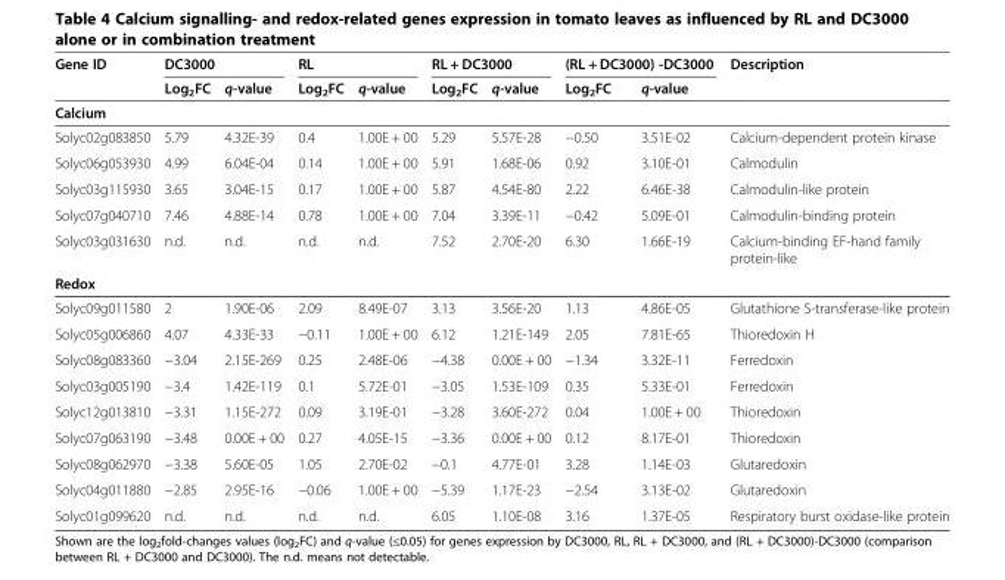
<table><thead><tr><td rowspan="2">Gene ID</td><td colspan="2">DC3000</td><td colspan="2">RL</td><td colspan="2">RL + DC3000</td><td colspan="2">(RL + DC3000) -DC3000</td><td rowspan="2">Description</td></tr><tr><td>Log<sub>2</sub>FC</td><td>q-value</td><td>Log<sub>2</sub>FC</td><td>q-value</td><td>Log<sub>2</sub>FC</td><td>q-value</td><td>Log<sub>2</sub>FC</td><td>q-value</td></tr></thead><tbody><tr><td colspan="10">Calcium</td></tr><tr><td>Solyc02g083850</td><td>5.79</td><td>4.32E-39</td><td>0.4</td><td>1.00E + 00</td><td>5.29</td><td>5.57E-28</td><td>−0.50</td><td>3.51E-02</td><td>Calcium-dependent protein kinase</td></tr><tr><td>Solyc06g053930</td><td>4.99</td><td>6.04E-04</td><td>0.14</td><td>1.00E + 00</td><td>5.91</td><td>1.68E-06</td><td>0.92</td><td>3.10E-01</td><td>Calmodulin</td></tr><tr><td>Solyc03g115930</td><td>3.65</td><td>3.04E-15</td><td>0.17</td><td>1.00E + 00</td><td>5.87</td><td>4.54E-80</td><td>2.22</td><td>6.46E-38</td><td>Calmodulin-like protein</td></tr><tr><td>Solyc07g040710</td><td>7.46</td><td>4.88E-14</td><td>0.78</td><td>1.00E + 00</td><td>7.04</td><td>3.39E-11</td><td>−0.42</td><td>5.09E-01</td><td>Calmodulin-binding protein</td></tr><tr><td>Solyc03g031630</td><td>n.d.</td><td>n.d.</td><td>n.d.</td><td>n.d.</td><td>7.52</td><td>2.70E-20</td><td>6.30</td><td>1.66E-19</td><td>Calcium-binding EF-hand family protein-like</td></tr><tr><td colspan="10">Redox</td></tr><tr><td>Solyc09g011580</td><td>2</td><td>1.90E-06</td><td>2.09</td><td>8.49E-07</td><td>3.13</td><td>3.56E-20</td><td>1.13</td><td>4.86E-05</td><td>Glutathione S-transferase-like protein</td></tr><tr><td>Solyc05g006860</td><td>4.07</td><td>4.33E-33</td><td>−0.11</td><td>1.00E + 00</td><td>6.12</td><td>1.21E-149</td><td>2.05</td><td>7.81E-65</td><td>Thioredoxin H</td></tr><tr><td>Solyc08g083360</td><td>−3.04</td><td>2.15E-269</td><td>0.25</td><td>2.48E-06</td><td>−4.38</td><td>0.00E + 00</td><td>−1.34</td><td>3.32E-11</td><td>Ferredoxin</td></tr><tr><td>Solyc03g005190</td><td>−3.4</td><td>1.42E-119</td><td>0.1</td><td>5.72E-01</td><td>−3.05</td><td>1.53E-109</td><td>0.35</td><td>5.33E-01</td><td>Ferredoxin</td></tr><tr><td>Solyc12g013810</td><td>−3.31</td><td>1.15E-272</td><td>0.09</td><td>3.19E-01</td><td>−3.28</td><td>3.60E-272</td><td>0.04</td><td>1.00E + 00</td><td>Thioredoxin</td></tr><tr><td>Solyc07g063190</td><td>−3.48</td><td>0.00E + 00</td><td>0.27</td><td>4.05E-15</td><td>−3.36</td><td>0.00E + 00</td><td>0.12</td><td>8.17E-01</td><td>Thioredoxin</td></tr><tr><td>Solyc08g062970</td><td>−3.38</td><td>5.60E-05</td><td>1.05</td><td>2.70E-02</td><td>−0.1</td><td>4.77E-01</td><td>3.28</td><td>1.14E-03</td><td>Glutaredoxin</td></tr><tr><td>Solyc04g011880</td><td>−2.85</td><td>2.95E-16</td><td>−0.06</td><td>1.00E + 00</td><td>−5.39</td><td>1.17E-23</td><td>−2.54</td><td>3.13E-02</td><td>Glutaredoxin</td></tr><tr><td>Solyc01g099620</td><td>n.d.</td><td>n.d.</td><td>n.d.</td><td>n.d.</td><td>6.05</td><td>1.10E-08</td><td>3.16</td><td>1.37E-05</td><td>Respiratory burst oxidase-like protein</td></tr></tbody></table>